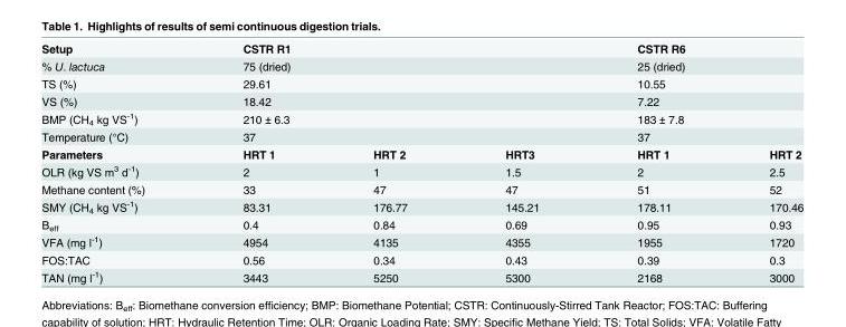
<table><tbody><tr><td>Setup</td><td colspan="3">CSTR R1</td><td colspan="2">CSTR R6</td></tr><tr><td>% U. lactuca</td><td colspan="3">75 (dried)</td><td colspan="2">25 (dried)</td></tr><tr><td>TS (%)</td><td colspan="3">29.61</td><td colspan="2">10.55</td></tr><tr><td>VS (%)</td><td colspan="3">18.42</td><td colspan="2">7.22</td></tr><tr><td>BMP (CH<sub>4</sub> kg VS<sup>-1</sup>)</td><td colspan="3">210 ± 6.3</td><td colspan="2">183 ± 7.8</td></tr><tr><td>Temperature (°C)</td><td colspan="3">37</td><td colspan="2">37</td></tr><tr><td>Parameters</td><td>HRT 1</td><td>HRT 2</td><td>HRT3</td><td>HRT 1</td><td>HRT 2</td></tr><tr><td>OLR (kg VS m<sup>3</sup> d<sup>-1</sup>)</td><td>2</td><td>1</td><td>1.5</td><td>2</td><td>2.5</td></tr><tr><td>Methane content (%)</td><td>33</td><td>47</td><td>47</td><td>51</td><td>52</td></tr><tr><td>SMY (CH<sub>4</sub> kg VS<sup>-1</sup>)</td><td>83.31</td><td>176.77</td><td>145.21</td><td>178.11</td><td>170.46</td></tr><tr><td>B<sub>eff</sub></td><td>0.4</td><td>0.84</td><td>0.69</td><td>0.95</td><td>0.93</td></tr><tr><td>VFA (mg l<sup>-1</sup>)</td><td>4954</td><td>4135</td><td>4355</td><td>1955</td><td>1720</td></tr><tr><td>FOS:TAC</td><td>0.56</td><td>0.34</td><td>0.43</td><td>0.39</td><td>0.3</td></tr><tr><td>TAN (mg l<sup>-1</sup>)</td><td>3443</td><td>5250</td><td>5300</td><td>2168</td><td>3000</td></tr></tbody></table>